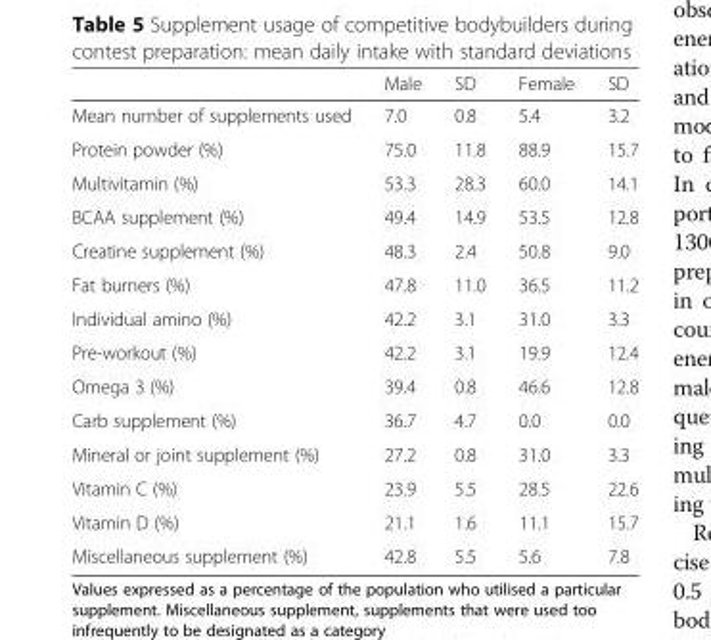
<table><thead><tr><td></td><td>Male</td><td>SD</td><td>Female</td><td>SD</td></tr></thead><tbody><tr><td>Mean number of supplements used</td><td>7.0</td><td>0.8</td><td>5.4</td><td>3.2</td></tr><tr><td>Protein powder (%)</td><td>75.0</td><td>11.8</td><td>88.9</td><td>15.7</td></tr><tr><td>Multivitamin (%)</td><td>53.3</td><td>28.3</td><td>60.0</td><td>14.1</td></tr><tr><td>BCAA supplement (%)</td><td>49.4</td><td>14.9</td><td>53.5</td><td>12.8</td></tr><tr><td>Creatine supplement (%)</td><td>48.3</td><td>2.4</td><td>50.8</td><td>9.0</td></tr><tr><td>Fat burners (%)</td><td>47.8</td><td>11.0</td><td>36.5</td><td>11.2</td></tr><tr><td>Individual amino (%)</td><td>42.2</td><td>3.1</td><td>31.0</td><td>3.3</td></tr><tr><td>Pre-workout (%)</td><td>42.2</td><td>3.1</td><td>19.9</td><td>12.4</td></tr><tr><td>Omega 3 (%)</td><td>39.4</td><td>0.8</td><td>46.6</td><td>12.8</td></tr><tr><td>Carb supplement (%)</td><td>36.7</td><td>4.7</td><td>0.0</td><td>0.0</td></tr><tr><td>Mineral or joint supplement (%)</td><td>27.2</td><td>0.8</td><td>31.0</td><td>3.3</td></tr><tr><td>Vitamin C (%)</td><td>23.9</td><td>5.5</td><td>28.5</td><td>22.6</td></tr><tr><td>Vitamin D (%)</td><td>21.1</td><td>1.6</td><td>11.1</td><td>15.7</td></tr><tr><td>Miscellaneous supplement (%)</td><td>42.8</td><td>5.5</td><td>5.6</td><td>7.8</td></tr></tbody></table>